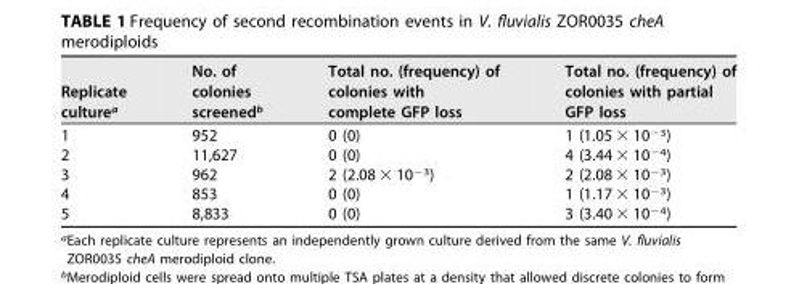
<table><thead><tr><td>Replicate culture<sup>a</sup></td><td>No. of colonies screened<sup>b</sup></td><td>Total no. (frequency) of colonies with complete GFP loss</td><td>Total no. (frequency) of colonies with partial GFP loss</td></tr></thead><tbody><tr><td>1</td><td>952</td><td>0 (0)</td><td>1 (1.05 × 10<sup>−3</sup>)</td></tr><tr><td>2</td><td>11,627</td><td>0 (0)</td><td>4 (3.44 × 10<sup>−4</sup>)</td></tr><tr><td>3</td><td>962</td><td>2 (2.08 × 10<sup>−3</sup>)</td><td>2 (2.08 × 10<sup>−3</sup>)</td></tr><tr><td>4</td><td>853</td><td>0 (0)</td><td>1 (1.17 × 10<sup>−3</sup>)</td></tr><tr><td>5</td><td>8,833</td><td>0 (0)</td><td>3 (3.40 × 10<sup>−4</sup>)</td></tr></tbody></table>